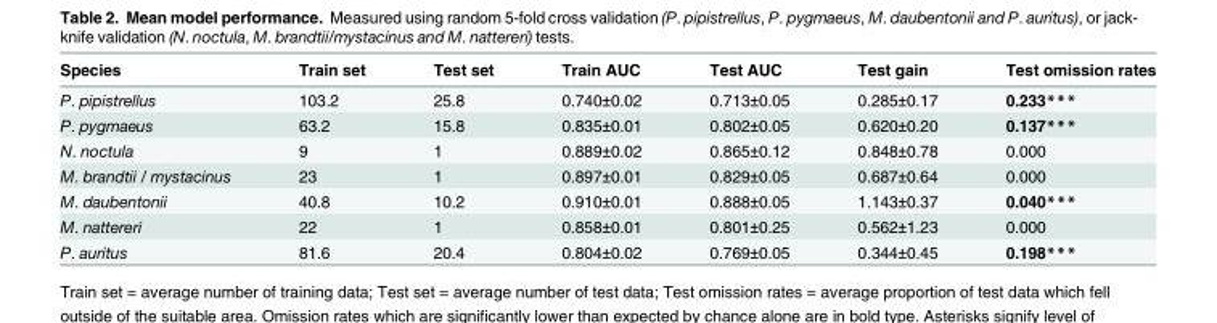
<table><thead><tr><td>Species</td><td>Train set</td><td>Test set</td><td>Train AUC</td><td>Test AUC</td><td>Test gain</td><td>Test omission rates</td></tr></thead><tbody><tr><td>P. pipistrellus</td><td>103.2</td><td>25.8</td><td>0.740±0.02</td><td>0.713±0.05</td><td>0.285±0.17</td><td>0.233***</td></tr><tr><td>P. pygmaeus</td><td>63.2</td><td>15.8</td><td>0.835±0.01</td><td>0.802±0.05</td><td>0.620±0.20</td><td>0.137***</td></tr><tr><td>N. noctula</td><td>9</td><td>1</td><td>0.889±0.02</td><td>0.865±0.12</td><td>0.848±0.78</td><td>0.000</td></tr><tr><td>M. brandtii / mystacinus</td><td>23</td><td>1</td><td>0.897±0.01</td><td>0.829±0.05</td><td>0.687±0.64</td><td>0.000</td></tr><tr><td>M. daubentonii</td><td>40.8</td><td>10.2</td><td>0.910±0.01</td><td>0.888±0.05</td><td>1.143±0.37</td><td>0.040***</td></tr><tr><td>M. nattereri</td><td>22</td><td>1</td><td>0.858±0.01</td><td>0.801±0.25</td><td>0.562±1.23</td><td>0.000</td></tr><tr><td>P. auritus</td><td>81.6</td><td>20.4</td><td>0.804±0.02</td><td>0.769±0.05</td><td>0.344±0.45</td><td>0.198***</td></tr></tbody></table>